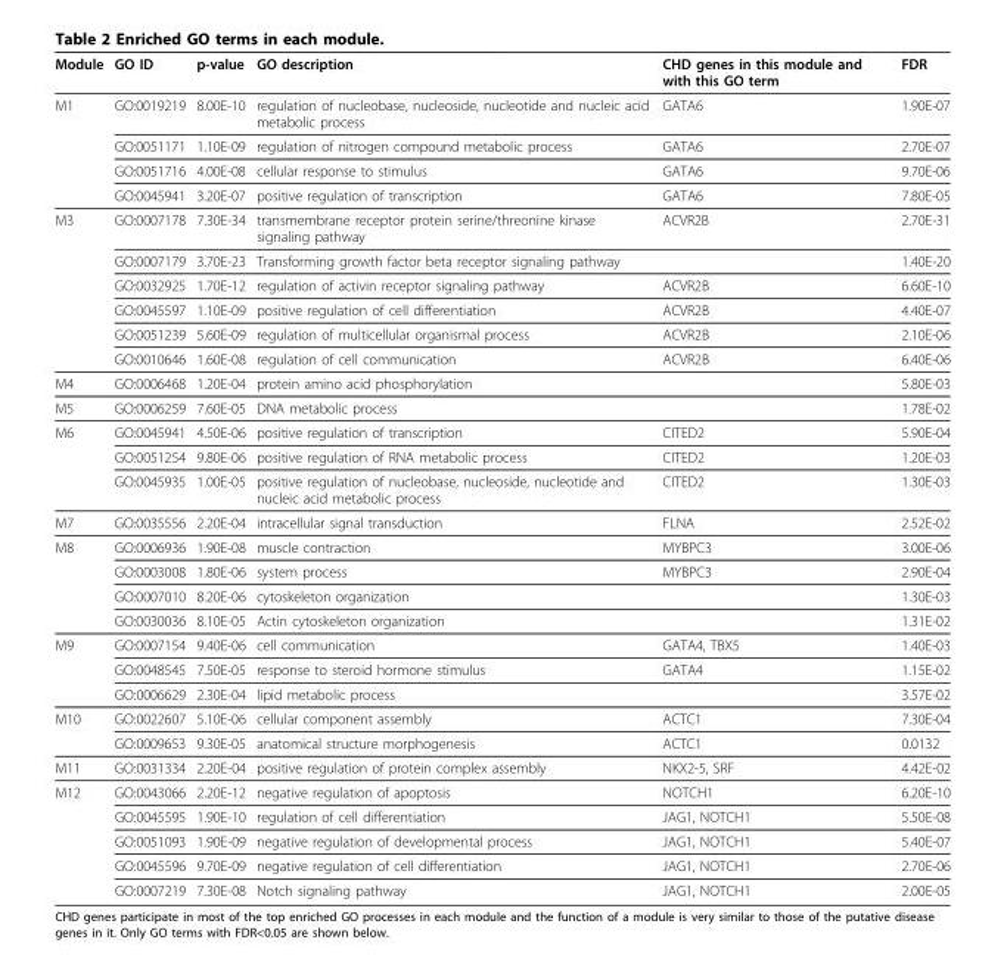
<table><thead><tr><td>Module</td><td>GO ID</td><td>p-value</td><td>GO description</td><td>CHD genes in this module and with this GO term</td><td>FDR</td></tr></thead><tbody><tr><td rowspan="4">M1</td><td>GO:0019219</td><td>8.00E-10</td><td>regulation of nucleobase, nucleoside, nucleotide and nucleic acid metabolic process</td><td>GATA6</td><td>1.90E-07</td></tr><tr><td>GO:0051171</td><td>1.10E-09</td><td>regulation of nitrogen compound metabolic process</td><td>GATA6</td><td>2.70E-07</td></tr><tr><td>GO:0051716</td><td>4.00E-08</td><td>cellular response to stimulus</td><td>GATA6</td><td>9.70E-06</td></tr><tr><td>GO:0045941</td><td>3.20E-07</td><td>positive regulation of transcription</td><td>GATA6</td><td>7.80E-05</td></tr><tr><td rowspan="6">M3</td><td>GO:0007178</td><td>7.30E-34</td><td>transmembrane receptor protein serine/threonine kinase signaling pathway</td><td>ACVR2B</td><td>2.70E-31</td></tr><tr><td>GO:0007179</td><td>3.70E-23</td><td>Transforming growth factor beta receptor signaling pathway</td><td></td><td>1.40E-20</td></tr><tr><td>GO:0032925</td><td>1.70E-12</td><td>regulation of activin receptor signaling pathway</td><td>ACVR2B</td><td>6.60E-10</td></tr><tr><td>GO:0045597</td><td>1.10E-09</td><td>positive regulation of cell differentiation</td><td>ACVR2B</td><td>4.40E-07</td></tr><tr><td>GO:0051239</td><td>5.60E-09</td><td>regulation of multicellular organismal process</td><td>ACVR2B</td><td>2.10E-06</td></tr><tr><td>GO:0010646</td><td>1.60E-08</td><td>regulation of cell communication</td><td>ACVR2B</td><td>6.40E-06</td></tr><tr><td>M4</td><td>GO:0006468</td><td>1.20E-04</td><td>protein amino acid phosphorylation</td><td></td><td>5.80E-03</td></tr><tr><td>M5</td><td>GO:0006259</td><td>7.60E-05</td><td>DNA metabolic process</td><td></td><td>1.78E-02</td></tr><tr><td rowspan="3">M6</td><td>GO:0045941</td><td>4.50E-06</td><td>positive regulation of transcription</td><td>CITED2</td><td>5.90E-04</td></tr><tr><td>GO:0051254</td><td>9.80E-06</td><td>positive regulation of RNA metabolic process</td><td>CITED2</td><td>1.20E-03</td></tr><tr><td>GO:0045935</td><td>1.00E-05</td><td>positive regulation of nucleobase, nucleoside, nucleotide and nucleic acid metabolic process</td><td>CITED2</td><td>1.30E-03</td></tr><tr><td>M7</td><td>GO:0035556</td><td>2.20E-04</td><td>intracellular signal transduction</td><td>FLNA</td><td>2.52E-02</td></tr><tr><td rowspan="4">M8</td><td>GO:0006936</td><td>1.90E-08</td><td>muscle contraction</td><td>MYBPC3</td><td>3.00E-06</td></tr><tr><td>GO:0003008</td><td>1.80E-06</td><td>system process</td><td>MYBPC3</td><td>2.90E-04</td></tr><tr><td>GO:0007010</td><td>8.20E-06</td><td>cytoskeleton organization</td><td></td><td>1.30E-03</td></tr><tr><td>GO:0030036</td><td>8.10E-05</td><td>Actin cytoskeleton organization</td><td></td><td>1.31E-02</td></tr><tr><td rowspan="3">M9</td><td>GO:0007154</td><td>9.40E-06</td><td>cell communication</td><td>GATA4, TBX5</td><td>1.40E-03</td></tr><tr><td>GO:0048545</td><td>7.50E-05</td><td>response to steroid hormone stimulus</td><td>GATA4</td><td>1.15E-02</td></tr><tr><td>GO:0006629</td><td>2.30E-04</td><td>lipid metabolic process</td><td></td><td>3.57E-02</td></tr><tr><td rowspan="2">M10</td><td>GO:0022607</td><td>5.10E-06</td><td>cellular component assembly</td><td>ACTC1</td><td>7.30E-04</td></tr><tr><td>GO:0009653</td><td>9.30E-05</td><td>anatomical structure morphogenesis</td><td>ACTC1</td><td>0.0132</td></tr><tr><td>M11</td><td>GO:0031334</td><td>2.20E-04</td><td>positive regulation of protein complex assembly</td><td>NKX2-5, SRF</td><td>4.42E-02</td></tr><tr><td rowspan="5">M12</td><td>GO:0043066</td><td>2.20E-12</td><td>negative regulation of apoptosis</td><td>NOTCH1</td><td>6.20E-10</td></tr><tr><td>GO:0045595</td><td>1.90E-10</td><td>regulation of cell differentiation</td><td>JAG1, NOTCH1</td><td>5.50E-08</td></tr><tr><td>GO:0051093</td><td>1.90E-09</td><td>negative regulation of developmental process</td><td>JAG1, NOTCH1</td><td>5.40E-07</td></tr><tr><td>GO:0045596</td><td>9.70E-09</td><td>negative regulation of cell differentiation</td><td>JAG1, NOTCH1</td><td>2.70E-06</td></tr><tr><td>GO:0007219</td><td>7.30E-08</td><td>Notch signaling pathway</td><td>JAG1, NOTCH1</td><td>2.00E-05</td></tr></tbody></table>